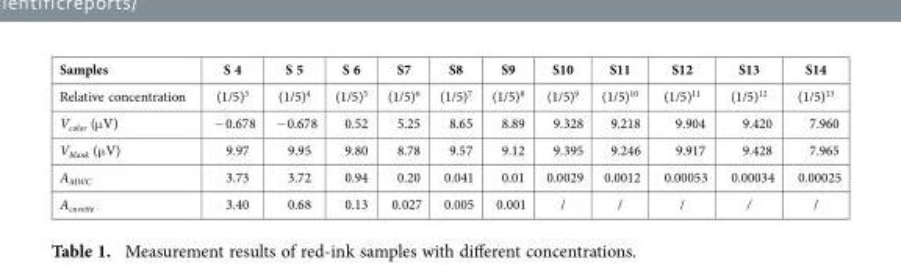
<table><tbody><tr><td>Samples</td><td>S 4</td><td>S 5</td><td>S 6</td><td>S7</td><td>S8</td><td>S9</td><td>S10</td><td>S11</td><td>S12</td><td>S13</td><td>S14</td></tr><tr><td>Relative concentration</td><td>(1/5)3</td><td>(1/5)4</td><td>(1/5)5</td><td>(1/5)6</td><td>(1/5)7</td><td>(1/5)8</td><td>(1/5)9</td><td>(1/5)10</td><td>(1/5)11</td><td>(1/5)12</td><td>(1/5)13</td></tr><tr><td>Vcolor (μ V)</td><td>− 0.678</td><td>− 0.678</td><td>0.52</td><td>5.25</td><td>8.65</td><td>8.89</td><td>9.328</td><td>9.218</td><td>9.904</td><td>9.420</td><td>7.960</td></tr><tr><td>Vblank (μ V)</td><td>9.97</td><td>9.95</td><td>9.80</td><td>8.78</td><td>9.57</td><td>9.12</td><td>9.395</td><td>9.246</td><td>9.917</td><td>9.428</td><td>7.965</td></tr><tr><td>AMWC</td><td>3.73</td><td>3.72</td><td>0.94</td><td>0.20</td><td>0.041</td><td>0.01</td><td>0.0029</td><td>0.0012</td><td>0.00053</td><td>0.00034</td><td>0.00025</td></tr><tr><td>Acuvette</td><td>3.40</td><td>0.68</td><td>0.13</td><td>0.027</td><td>0.005</td><td>0.001</td><td>/</td><td>/</td><td>/</td><td>/</td><td>/</td></tr></tbody></table>